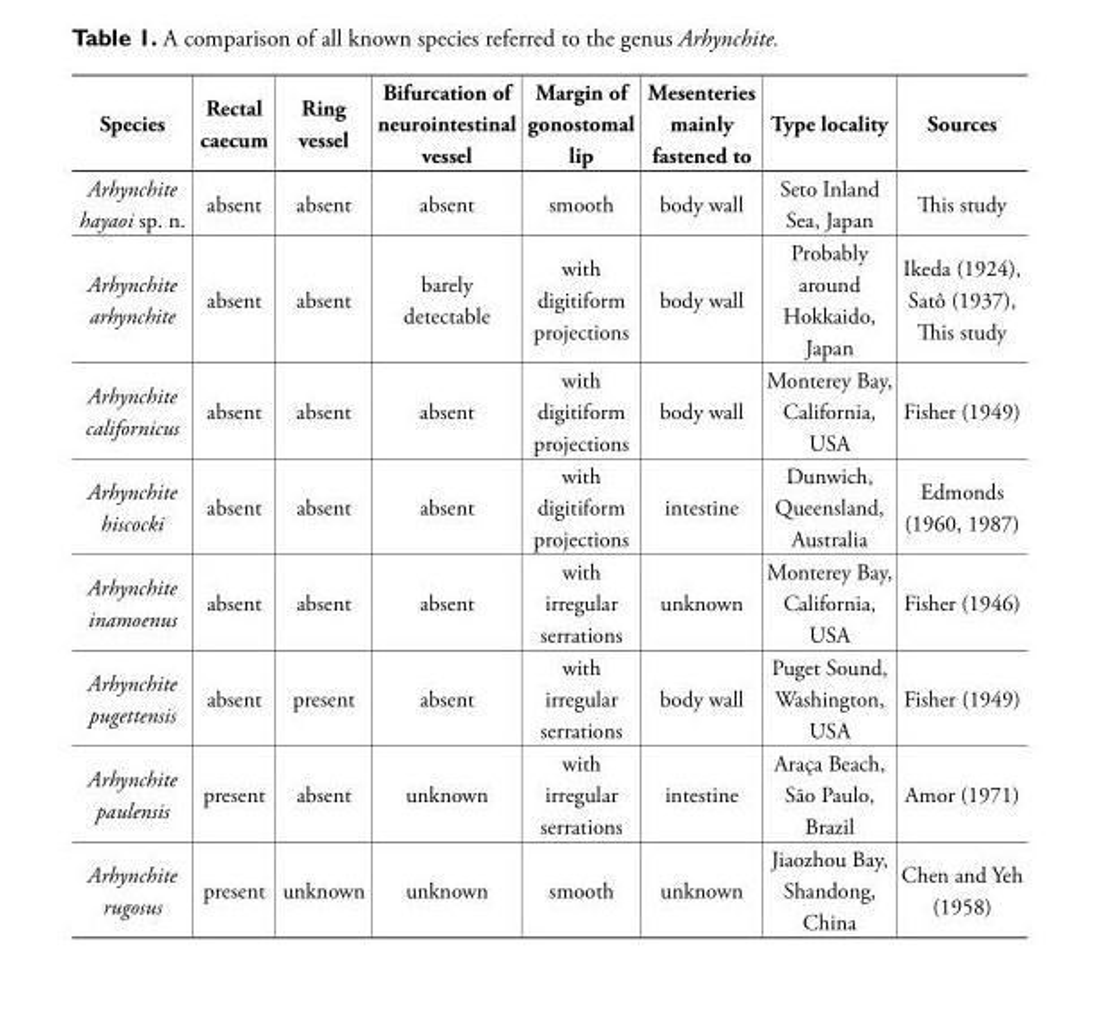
<table><thead><tr><td>Species</td><td>Rectal caecum</td><td>Ring vessel</td><td>Bifurcation of neurointestinal vessel</td><td>Margin of gonostomal lip</td><td>Mesenteries mainly fastened to</td><td>Type locality</td><td>Sources</td></tr></thead><tbody><tr><td>Arhynchite hayaoi sp. n.</td><td>absent</td><td>absent</td><td>absent</td><td>smooth</td><td>body wall</td><td>Seto Inland Sea, Japan</td><td>This study</td></tr><tr><td>Arhynchite arhynchite</td><td>absent</td><td>absent</td><td>barely detectable</td><td>with digitiform projections</td><td>body wall</td><td>Probably around Hokkaido, Japan</td><td>Ikeda (1924), Satô (1937), This study</td></tr><tr><td>Arhynchite californicus</td><td>absent</td><td>absent</td><td>absent</td><td>with digitiform projections</td><td>body wall</td><td>Monterey Bay, California, USA</td><td>Fisher (1949)</td></tr><tr><td>Arhynchite hiscocki</td><td>absent</td><td>absent</td><td>absent</td><td>with digitiform projections</td><td>intestine</td><td>Dunwich, Queensland, Australia</td><td>Edmonds (1960, 1987)</td></tr><tr><td>Arhynchite inamoenus</td><td>absent</td><td>absent</td><td>absent</td><td>with irregular serrations</td><td>unknown</td><td>Monterey Bay, California, USA</td><td>Fisher (1946)</td></tr><tr><td>Arhynchite pugettensis</td><td>absent</td><td>present</td><td>absent</td><td>with irregular serrations</td><td>body wall</td><td>Puget Sound, Washington, USA</td><td>Fisher (1949)</td></tr><tr><td>Arhynchite paulensis</td><td>present</td><td>absent</td><td>unknown</td><td>with irregular serrations</td><td>intestine</td><td>Araça Beach, São Paulo, Brazil</td><td>Amor (1971)</td></tr><tr><td>Arhynchite rugosus</td><td>present</td><td>unknown</td><td>unknown</td><td>smooth</td><td>unknown</td><td>Jiaozhou Bay, Shandong, China</td><td>Chen and Yeh (1958)</td></tr></tbody></table>